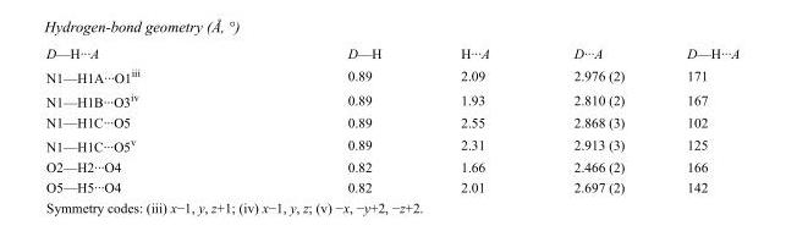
<table><tbody><tr><td>D—H···A</td><td>D—H</td><td>H···A</td><td>D···A</td><td>D—H···A</td></tr><tr><td>N1—H1A···O1<sup>iii</sup></td><td>0.89</td><td>2.09</td><td>2.976 (2)</td><td>171</td></tr><tr><td>N1—H1B···O3<sup>iv</sup></td><td>0.89</td><td>1.93</td><td>2.810 (2)</td><td>167</td></tr><tr><td>N1—H1C···O5</td><td>0.89</td><td>2.55</td><td>2.868 (3)</td><td>102</td></tr><tr><td>N1—H1C···O5<sup>v</sup></td><td>0.89</td><td>2.31</td><td>2.913 (3)</td><td>125</td></tr><tr><td>O2—H2···O4</td><td>0.82</td><td>1.66</td><td>2.466 (2)</td><td>166</td></tr><tr><td>O5—H5···O4</td><td>0.82</td><td>2.01</td><td>2.697 (2)</td><td>142</td></tr></tbody></table>